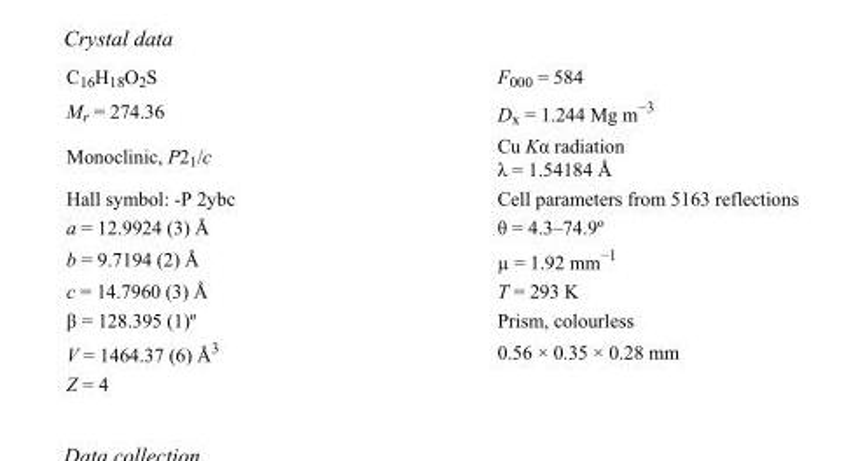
<table><tbody><tr><td>C<sub>16</sub>H<sub>18</sub>O<sub>2</sub>S</td><td>F000 = 584</td></tr><tr><td>M<sub>r</sub> = 274.36</td><td>D<sub>x</sub> = 1.244 Mg m<sup>−3</sup></td></tr><tr><td>Monoclinic, P2<sub>1</sub>/c</td><td>Cu Kα radiation λ = 1.54184 Å</td></tr><tr><td>Hall symbol: -P 2ybc</td><td>Cell parameters from 5163 reflections</td></tr><tr><td>a = 12.9924 (3) Å</td><td>θ = 4.3–74.9º</td></tr><tr><td>b = 9.7194 (2) Å</td><td>µ = 1.92 mm<sup>−1</sup></td></tr><tr><td>c = 14.7960 (3) Å</td><td>T = 293 K</td></tr><tr><td>β = 128.395 (1)º</td><td>Prism, colourless</td></tr><tr><td>V = 1464.37 (6) Å<sup>3</sup></td><td>0.56 × 0.35 × 0.28 mm</td></tr><tr><td>Z = 4</td><td></td></tr></tbody></table>